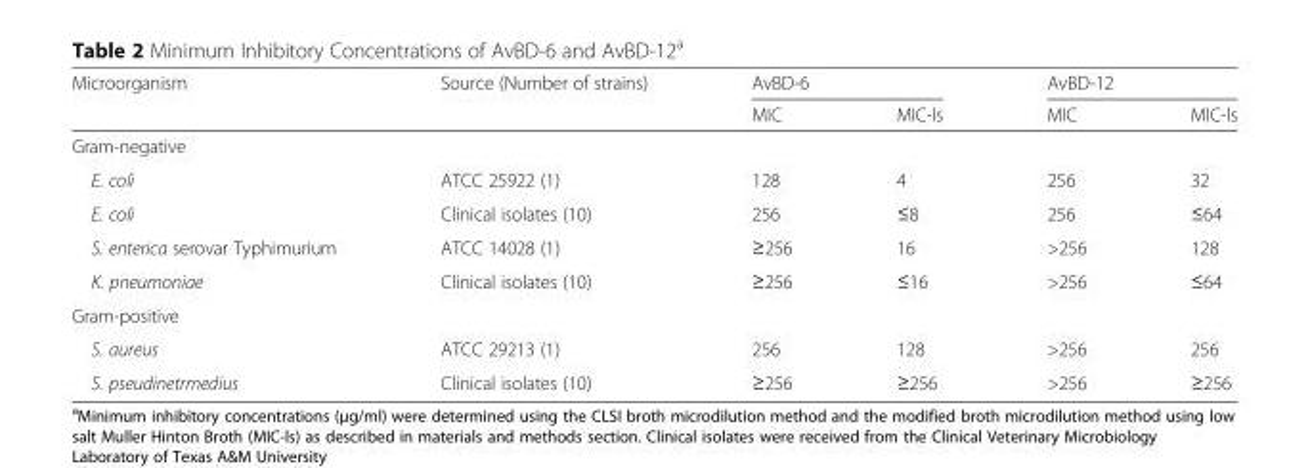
<table><thead><tr><td rowspan="2">Microorganism</td><td rowspan="2">Source (Number of strains)</td><td colspan="2">AvBD-6</td><td colspan="2">AvBD-12</td></tr><tr><td>MIC</td><td>MIC-ls</td><td>MIC</td><td>MIC-ls</td></tr></thead><tbody><tr><td colspan="6">Gram-negative</td></tr><tr><td>E. coli</td><td>ATCC 25922 (1)</td><td>128</td><td>4</td><td>256</td><td>32</td></tr><tr><td>E. coli</td><td>Clinical isolates (10)</td><td>256</td><td>≤8</td><td>256</td><td>≤64</td></tr><tr><td>S. enterica serovar Typhimurium</td><td>ATCC 14028 (1)</td><td>≥256</td><td>16</td><td>&gt;256</td><td>128</td></tr><tr><td>K. pneumoniae</td><td>Clinical isolates (10)</td><td>≥256</td><td>≤16</td><td>&gt;256</td><td>≤64</td></tr><tr><td colspan="6">Gram-positive</td></tr><tr><td>S. aureus</td><td>ATCC 29213 (1)</td><td>256</td><td>128</td><td>&gt;256</td><td>256</td></tr><tr><td>S. pseudinetrmedius</td><td>Clinical isolates (10)</td><td>≥256</td><td>≥256</td><td>&gt;256</td><td>≥256</td></tr></tbody></table>